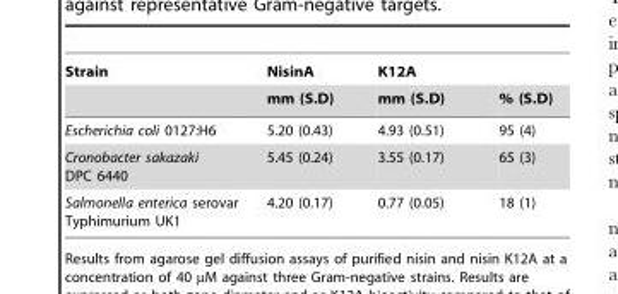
<table><thead><tr><td rowspan="2">Strain</td><td rowspan="2">NisinA mm (S.D)</td><td colspan="2">K12A</td></tr><tr><td>mm (S.D)</td><td>% (S.D)</td></tr></thead><tbody><tr><td>Escherichia coli 0127:H6</td><td>5.20 (0.43)</td><td>4.93 (0.51)</td><td>95 (4)</td></tr><tr><td>Cronobacter sakazaki DPC 6440</td><td>5.45 (0.24)</td><td>3.55 (0.17)</td><td>65 (3)</td></tr><tr><td>Salmonella enterica serovar Typhimurium UK1</td><td>4.20 (0.17)</td><td>0.77 (0.05)</td><td>18 (1)</td></tr></tbody></table>